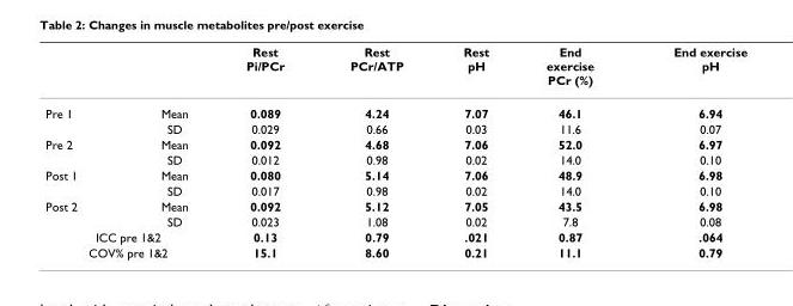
<table><thead><tr><td></td><td></td><td>Rest Pi/PCr</td><td>Rest PCr/ATP</td><td>Rest pH</td><td>End exercise PCr (%)</td><td>End exercise pH</td></tr></thead><tbody><tr><td rowspan="2">Pre 1</td><td>Mean</td><td>0.089</td><td>4.24</td><td>7.07</td><td>46.1</td><td>6.94</td></tr><tr><td>SD</td><td>0.029</td><td>0.66</td><td>0.03</td><td>11.6</td><td>0.07</td></tr><tr><td rowspan="2">Pre 2</td><td>Mean</td><td>0.092</td><td>4.68</td><td>7.06</td><td>52.0</td><td>6.97</td></tr><tr><td>SD</td><td>0.012</td><td>0.98</td><td>0.02</td><td>14.0</td><td>0.10</td></tr><tr><td rowspan="2">Post 1</td><td>Mean</td><td>0.080</td><td>5.14</td><td>7.06</td><td>48.9</td><td>6.98</td></tr><tr><td>SD</td><td>0.017</td><td>0.98</td><td>0.02</td><td>14.0</td><td>0.10</td></tr><tr><td rowspan="2">Post 2</td><td>Mean</td><td>0.092</td><td>5.12</td><td>7.05</td><td>43.5</td><td>6.98</td></tr><tr><td>SD</td><td>0.023</td><td>1.08</td><td>0.02</td><td>7.8</td><td>0.08</td></tr><tr><td colspan="2">ICC pre 1&amp;2</td><td>0.13</td><td>0.79</td><td>.021</td><td>0.87</td><td>.064</td></tr><tr><td colspan="2">COV% pre 1&amp;2</td><td>15.1</td><td>8.60</td><td>0.21</td><td>11.1</td><td>0.79</td></tr></tbody></table>